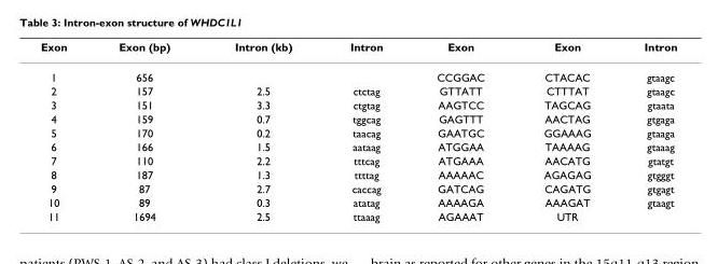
<table><thead><tr><td>Exon</td><td>Exon (bp)</td><td>Intron (kb)</td><td>Intron</td><td>Exon</td><td>Exon</td><td>Intron</td></tr></thead><tbody><tr><td>1</td><td>656</td><td></td><td></td><td>CCGGAC</td><td>CTACAC</td><td>gtaagc</td></tr><tr><td>2</td><td>157</td><td>2.5</td><td>ctctag</td><td>GTTATT</td><td>CTTTAT</td><td>gtaagc</td></tr><tr><td>3</td><td>151</td><td>3.3</td><td>ctgtag</td><td>AAGTCC</td><td>TAGCAG</td><td>gtaata</td></tr><tr><td>4</td><td>159</td><td>0.7</td><td>tggcag</td><td>GAGTTT</td><td>AACTAG</td><td>gtgaga</td></tr><tr><td>5</td><td>170</td><td>0.2</td><td>taacag</td><td>GAATGC</td><td>GGAAAG</td><td>gtaaga</td></tr><tr><td>6</td><td>166</td><td>1.5</td><td>aataag</td><td>ATGGAA</td><td>TAAAAG</td><td>gtaaag</td></tr><tr><td>7</td><td>110</td><td>2.2</td><td>tttcag</td><td>ATGAAA</td><td>AACATG</td><td>gtatgt</td></tr><tr><td>8</td><td>187</td><td>1.3</td><td>ttttag</td><td>AAAAAC</td><td>AGAGAG</td><td>gtgggt</td></tr><tr><td>9</td><td>87</td><td>2.7</td><td>caccag</td><td>GATCAG</td><td>CAGATG</td><td>gtgagt</td></tr><tr><td>10</td><td>89</td><td>0.3</td><td>atatag</td><td>AAAAGA</td><td>AAAGAT</td><td>gtaagt</td></tr><tr><td>11</td><td>1694</td><td>2.5</td><td>ttaaag</td><td>AGAAAT</td><td>UTR</td><td></td></tr></tbody></table>